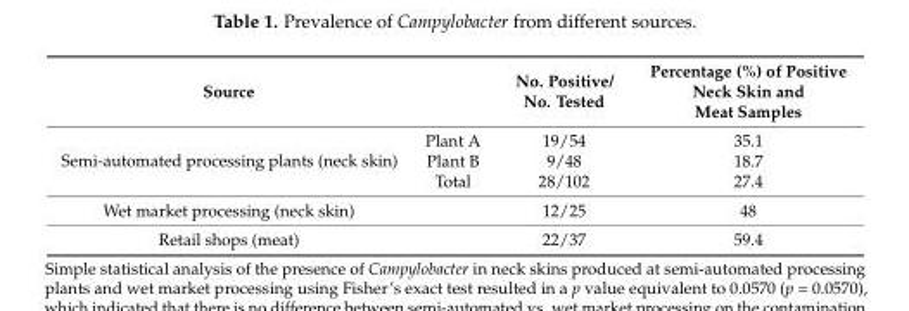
<table><thead><tr><td>Source</td><td></td><td>No. Positive/ No. Tested</td><td>Percentage (%) of Positive Neck Skin and Meat Samples</td></tr></thead><tbody><tr><td rowspan="3">Semi-automated processing plants (neck skin)</td><td>Plant A</td><td>19/54</td><td>35.1</td></tr><tr><td>Plant B</td><td>9/48</td><td>18.7</td></tr><tr><td>Total</td><td>28/102</td><td>27.4</td></tr><tr><td>Wet market processing (neck skin)</td><td></td><td>12/25</td><td>48</td></tr><tr><td>Retail shops (meat)</td><td></td><td>22/37</td><td>59.4</td></tr></tbody></table>